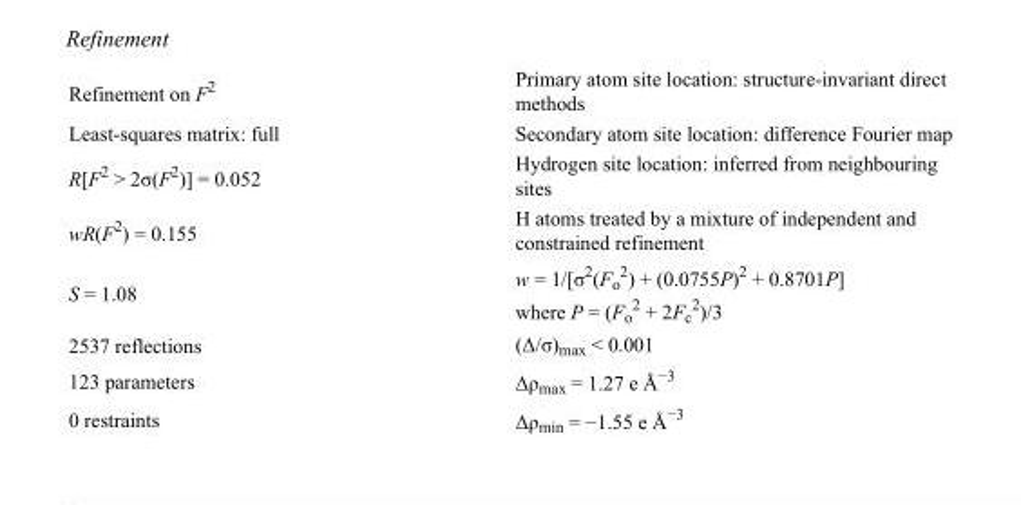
<table><tbody><tr><td>Refinement on F<sup>2</sup></td><td>Primary atom site location: structure-invariant direct methods</td></tr><tr><td>Least-squares matrix: full</td><td>Secondary atom site location: difference Fourier map</td></tr><tr><td>R[F<sup>2</sup> &gt; 2σ(F<sup>2</sup>)] = 0.052</td><td>Hydrogen site location: inferred from neighbouring sites</td></tr><tr><td>wR(F<sup>2</sup>) = 0.155</td><td>H atoms treated by a mixture of independent and constrained refinement</td></tr><tr><td>S = 1.08</td><td>w = 1/[σ<sup>2</sup>(F<sub>o</sub> <sup>2</sup>) + (0.0755P)<sup>2</sup> + 0.8701P] where P = (F<sub>o</sub> <sup>2</sup> + 2F<sub>c</sub> <sup>2</sup>)/3</td></tr><tr><td>2537 reflections</td><td>(Δ/σ)<sub>max</sub> &lt; 0.001</td></tr><tr><td>123 parameters</td><td>Δρ<sub>max</sub> = 1.27 e Å<sup>−3</sup></td></tr><tr><td>0 restraints</td><td>Δρ<sub>min</sub> = −1.55 e Å<sup>−3</sup></td></tr></tbody></table>